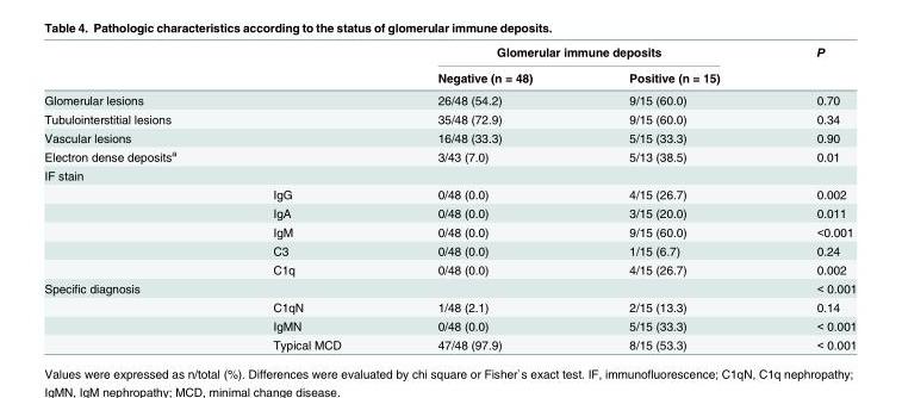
<table><thead><tr><td rowspan="2"></td><td rowspan="2"></td><td colspan="2">Glomerular immune deposits</td><td rowspan="2">P</td></tr><tr><td>Negative (n = 48)</td><td>Positive (n = 15)</td></tr></thead><tbody><tr><td>Glomerular lesions</td><td></td><td>26/48 (54.2)</td><td>9/15 (60.0)</td><td>0.70</td></tr><tr><td>Tubulointerstitial lesions</td><td></td><td>35/48 (72.9)</td><td>9/15 (60.0)</td><td>0.34</td></tr><tr><td>Vascular lesions</td><td></td><td>16/48 (33.3)</td><td>5/15 (33.3)</td><td>0.90</td></tr><tr><td>Electron dense deposits<sup>a</sup></td><td></td><td>3/43 (7.0)</td><td>5/13 (38.5)</td><td>0.01</td></tr><tr><td colspan="5">IF stain</td></tr><tr><td></td><td>IgG</td><td>0/48 (0.0)</td><td>4/15 (26.7)</td><td>0.002</td></tr><tr><td></td><td>IgA</td><td>0/48 (0.0)</td><td>3/15 (20.0)</td><td>0.011</td></tr><tr><td></td><td>IgM</td><td>0/48 (0.0)</td><td>9/15 (60.0)</td><td>&lt;0.001</td></tr><tr><td></td><td>C3</td><td>0/48 (0.0)</td><td>1/15 (6.7)</td><td>0.24</td></tr><tr><td></td><td>C1q</td><td>0/48 (0.0)</td><td>4/15 (26.7)</td><td>0.002</td></tr><tr><td rowspan="4">Specific diagnosis</td><td></td><td></td><td></td><td>&lt; 0.001</td></tr><tr><td>C1qN</td><td>1/48 (2.1)</td><td>2/15 (13.3)</td><td>0.14</td></tr><tr><td>IgMN</td><td>0/48 (0.0)</td><td>5/15 (33.3)</td><td>&lt; 0.001</td></tr><tr><td>Typical MCD</td><td>47/48 (97.9)</td><td>8/15 (53.3)</td><td>&lt; 0.001</td></tr></tbody></table>